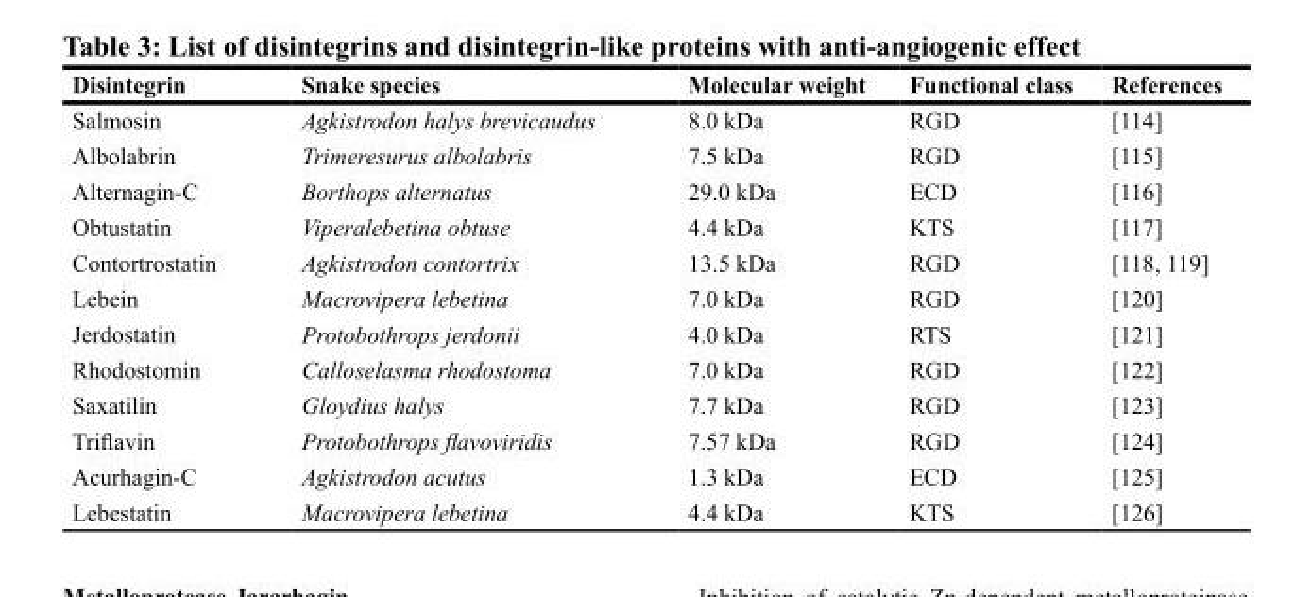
<table><thead><tr><td>Disintegrin</td><td>Snake species</td><td>Molecular weight</td><td>Functional class</td><td>References</td></tr></thead><tbody><tr><td>Salmosin</td><td>Agkistrodon halys brevicaudus</td><td>8.0 kDa</td><td>RGD</td><td>[114]</td></tr><tr><td>Albolabrin</td><td>Trimeresurus albolabris</td><td>7.5 kDa</td><td>RGD</td><td>[115]</td></tr><tr><td>Alternagin-C</td><td>Borthops alternatus</td><td>29.0 kDa</td><td>ECD</td><td>[116]</td></tr><tr><td>Obtustatin</td><td>Viperalebetina obtuse</td><td>4.4 kDa</td><td>KTS</td><td>[117]</td></tr><tr><td>Contortrostatin</td><td>Agkistrodon contortrix</td><td>13.5 kDa</td><td>RGD</td><td>[118, 119]</td></tr><tr><td>Lebein</td><td>Macrovipera lebetina</td><td>7.0 kDa</td><td>RGD</td><td>[120]</td></tr><tr><td>Jerdostatin</td><td>Protobothrops jerdonii</td><td>4.0 kDa</td><td>RTS</td><td>[121]</td></tr><tr><td>Rhodostomin</td><td>Calloselasma rhodostoma</td><td>7.0 kDa</td><td>RGD</td><td>[122]</td></tr><tr><td>Saxatilin</td><td>Gloydius halys</td><td>7.7 kDa</td><td>RGD</td><td>[123]</td></tr><tr><td>Triflavin</td><td>Protobothrops flavoviridis</td><td>7.57 kDa</td><td>RGD</td><td>[124]</td></tr><tr><td>Acurhagin-C</td><td>Agkistrodon acutus</td><td>1.3 kDa</td><td>ECD</td><td>[125]</td></tr><tr><td>Lebestatin</td><td>Macrovipera lebetina</td><td>4.4 kDa</td><td>KTS</td><td>[126]</td></tr></tbody></table>